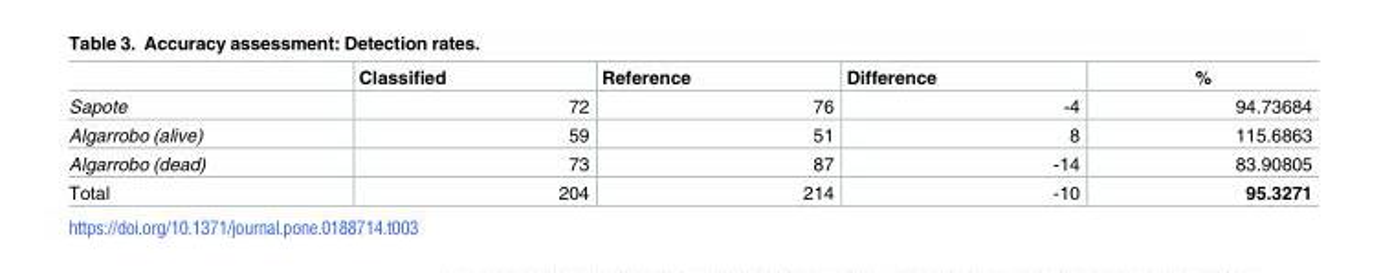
<table><thead><tr><td></td><td>Classified</td><td>Reference</td><td>Difference</td><td>%</td></tr></thead><tbody><tr><td>Sapote</td><td>72</td><td>76</td><td>-4</td><td>94.73684</td></tr><tr><td>Algarrobo (alive)</td><td>59</td><td>51</td><td>8</td><td>115.6863</td></tr><tr><td>Algarrobo (dead)</td><td>73</td><td>87</td><td>-14</td><td>83.90805</td></tr><tr><td>Total</td><td>204</td><td>214</td><td>-10</td><td>95.3271</td></tr></tbody></table>